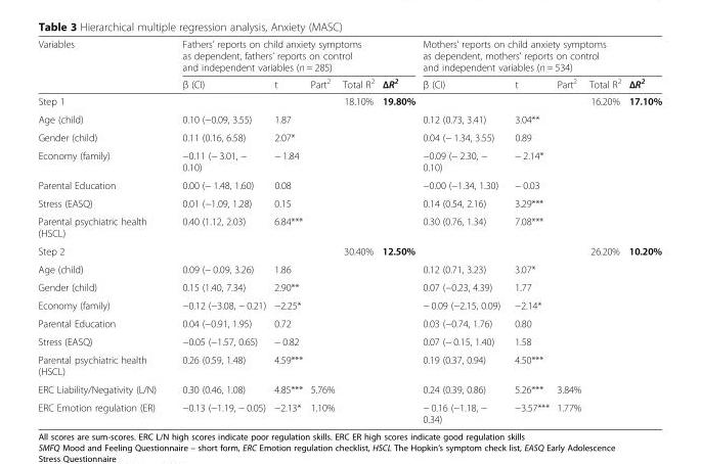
<table><thead><tr><td rowspan="2">Variables</td><td colspan="5">Fathers’ reports on child anxiety symptoms as dependent, fathers’ reports on control and independent variables (n = 285)</td><td colspan="5">Mothers’ reports on child anxiety symptoms as dependent, mothers’ reports on control and independent variables (n = 534)</td></tr><tr><td>β (CI)</td><td>t</td><td>Part<sup>2</sup></td><td>Total R<sup>2</sup></td><td>ΔR2</td><td>β (CI)</td><td>t</td><td>Part<sup>2</sup></td><td>Total R<sup>2</sup></td><td>ΔR2</td></tr></thead><tbody><tr><td>Step 1</td><td></td><td></td><td></td><td>18.10%</td><td>19.80%</td><td></td><td></td><td></td><td>16.20%</td><td>17.10%</td></tr><tr><td>Age (child)</td><td>0.10 (−0.09, 3.55)</td><td>1.87</td><td></td><td></td><td></td><td>0.12 (0.73, 3.41)</td><td>3.04**</td><td></td><td></td><td></td></tr><tr><td>Gender (child)</td><td>0.11 (0.16, 6.58)</td><td>2.07*</td><td></td><td></td><td></td><td>0.04 (− 1.34, 3.55)</td><td>0.89</td><td></td><td></td><td></td></tr><tr><td>Economy (family)</td><td>−0.11 (− 3.01, − 0.10)</td><td>− 1.84</td><td></td><td></td><td></td><td>−0.09 (− 2.30, − 0.10)</td><td>− 2.14*</td><td></td><td></td><td></td></tr><tr><td>Parental Education</td><td>0.00 (− 1.48, 1.60)</td><td>0.08</td><td></td><td></td><td></td><td>−0.00 (−1.34, 1.30)</td><td>− 0.03</td><td></td><td></td><td></td></tr><tr><td>Stress (EASQ)</td><td>0.01 (−1.09, 1.28)</td><td>0.15</td><td></td><td></td><td></td><td>0.14 (0.54, 2.16)</td><td>3.29***</td><td></td><td></td><td></td></tr><tr><td>Parental psychiatric health (HSCL)</td><td>0.40 (1.12, 2.03)</td><td>6.84***</td><td></td><td></td><td></td><td>0.30 (0.76, 1.34)</td><td>7.08***</td><td></td><td></td><td></td></tr><tr><td>Step 2</td><td></td><td></td><td></td><td>30.40%</td><td>12.50%</td><td></td><td></td><td></td><td>26.20%</td><td>10.20%</td></tr><tr><td>Age (child)</td><td>0.09 (− 0.09, 3.26)</td><td>1.86</td><td></td><td></td><td></td><td>0.12 (0.71, 3.23)</td><td>3.07*</td><td></td><td></td><td></td></tr><tr><td>Gender (child)</td><td>0.15 (1.40, 7.34)</td><td>2.90**</td><td></td><td></td><td></td><td>0.07 (−0.23, 4.39)</td><td>1.77</td><td></td><td></td><td></td></tr><tr><td>Economy (family)</td><td>−0.12 (−3.08, − 0.21)</td><td>−2.25*</td><td></td><td></td><td></td><td>− 0.09 (−2.15, 0.09)</td><td>−2.14*</td><td></td><td></td><td></td></tr><tr><td>Parental Education</td><td>0.04 (−0.91, 1.95)</td><td>0.72</td><td></td><td></td><td></td><td>0.03 (−0.74, 1.76)</td><td>0.80</td><td></td><td></td><td></td></tr><tr><td>Stress (EASQ)</td><td>−0.05 (−1.57, 0.65)</td><td>− 0.82</td><td></td><td></td><td></td><td>0.07 (− 0.15, 1.40)</td><td>1.58</td><td></td><td></td><td></td></tr><tr><td>Parental psychiatric health (HSCL)</td><td>0.26 (0.59, 1.48)</td><td>4.59***</td><td></td><td></td><td></td><td>0.19 (0.37, 0.94)</td><td>4.50***</td><td></td><td></td><td></td></tr><tr><td>ERC Liability/Negativity (L/N)</td><td>0.30 (0.46, 1.08)</td><td>4.85***</td><td>5.76%</td><td></td><td></td><td>0.24 (0.39, 0.86)</td><td>5.26***</td><td>3.84%</td><td></td><td></td></tr><tr><td>ERC Emotion regulation (ER)</td><td>−0.13 (−1.19, − 0.05)</td><td>−2.13*</td><td>1.10%</td><td></td><td></td><td>− 0.16 (−1.18, − 0.34)</td><td>−3.57***</td><td>1.77%</td><td></td><td></td></tr></tbody></table>